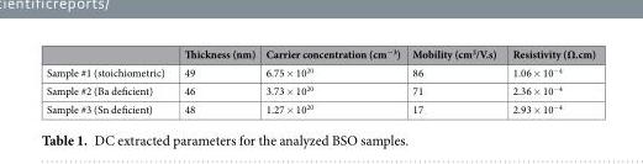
<table><thead><tr><td></td><td>Thickness (nm)</td><td>Carrier concentration (cm<sup>−3</sup>)</td><td>Mobility (cm<sup>2</sup>/V.s)</td><td>Resistivity (Ω.cm)</td></tr></thead><tbody><tr><td>Sample #1 (stoichiometric)</td><td>49</td><td>6.75 × 10<sup>20</sup></td><td>86</td><td>1.06 × 10<sup>−4</sup></td></tr><tr><td>Sample #2 (Ba deficient)</td><td>46</td><td>3.73 × 10<sup>20</sup></td><td>71</td><td>2.36 × 10<sup>−4</sup></td></tr><tr><td>Sample #3 (Sn deficient)</td><td>48</td><td>1.27 × 10<sup>20</sup></td><td>17</td><td>2.93 × 10<sup>−4</sup></td></tr></tbody></table>